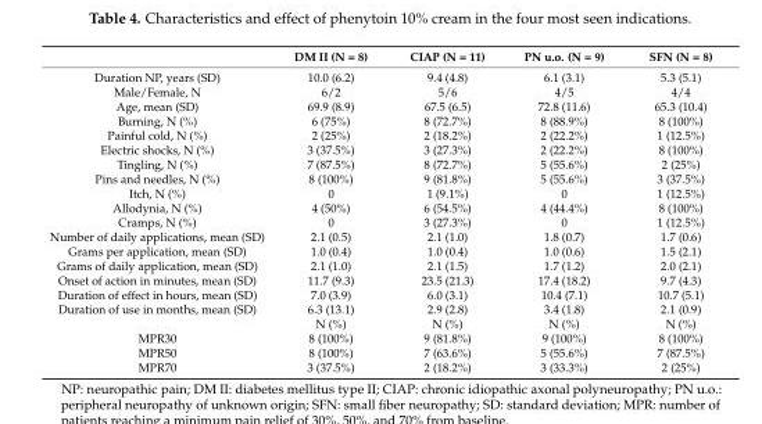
<table><thead><tr><td></td><td>DM II (N = 8)</td><td>CIAP (N = 11)</td><td>PN u.o. (N = 9)</td><td>SFN (N = 8)</td></tr></thead><tbody><tr><td>Duration NP, years (SD)</td><td>10.0 (6.2)</td><td>9.4 (4.8)</td><td>6.1 (3.1)</td><td>5.3 (5.1)</td></tr><tr><td>Male/Female, N</td><td>6/2</td><td>5/6</td><td>4/5</td><td>4/4</td></tr><tr><td>Age, mean (SD)</td><td>69.9 (8.9)</td><td>67.5 (6.5)</td><td>72.8 (11.6)</td><td>65.3 (10.4)</td></tr><tr><td>Burning, N (%)</td><td>6 (75%)</td><td>8 (72.7%)</td><td>8 (88.9%)</td><td>8 (100%)</td></tr><tr><td>Painful cold, N (%)</td><td>2 (25%)</td><td>2 (18.2%)</td><td>2 (22.2%)</td><td>1 (12.5%)</td></tr><tr><td>Electric shocks, N (%)</td><td>3 (37.5%)</td><td>3 (27.3%)</td><td>2 (22.2%)</td><td>8 (100%)</td></tr><tr><td>Tingling, N (%)</td><td>7 (87.5%)</td><td>8 (72.7%)</td><td>5 (55.6%)</td><td>2 (25%)</td></tr><tr><td>Pins and needles, N (%)</td><td>8 (100%)</td><td>9 (81.8%)</td><td>5 (55.6%)</td><td>3 (37.5%)</td></tr><tr><td>Itch, N (%)</td><td>0</td><td>1 (9.1%)</td><td>0</td><td>1 (12.5%)</td></tr><tr><td>Allodynia, N (%)</td><td>4 (50%)</td><td>6 (54.5%)</td><td>4 (44.4%)</td><td>8 (100%)</td></tr><tr><td>Cramps, N (%)</td><td>0</td><td>3 (27.3%)</td><td>0</td><td>1 (12.5%)</td></tr><tr><td>Number of daily applications, mean (SD)</td><td>2.1 (0.5)</td><td>2.1 (1.0)</td><td>1.8 (0.7)</td><td>1.7 (0.6)</td></tr><tr><td>Grams per application, mean (SD)</td><td>1.0 (0.4)</td><td>1.0 (0.4)</td><td>1.0 (0.6)</td><td>1.5 (2.1)</td></tr><tr><td>Grams of daily application, mean (SD)</td><td>2.1 (1.0)</td><td>2.1 (1.5)</td><td>1.7 (1.2)</td><td>2.0 (2.1)</td></tr><tr><td>Onset of action in minutes, mean (SD)</td><td>11.7 (9.3)</td><td>23.5 (21.3)</td><td>17.4 (18.2)</td><td>9.7 (4.3)</td></tr><tr><td>Duration of effect in hours, mean (SD)</td><td>7.0 (3.9)</td><td>6.0 (3.1)</td><td>10.4 (7.1)</td><td>10.7 (5.1)</td></tr><tr><td rowspan="2">Duration of use in months, mean (SD)</td><td>6.3 (13.1)</td><td>2.9 (2.8)</td><td>3.4 (1.8)</td><td>2.1 (0.9)</td></tr><tr><td>N (%)</td><td>N (%)</td><td>N (%)</td><td>N (%)</td></tr><tr><td>MPR30</td><td>8 (100%)</td><td>9 (81.8%)</td><td>9 (100%)</td><td>8 (100%)</td></tr><tr><td>MPR50</td><td>8 (100%)</td><td>7 (63.6%)</td><td>5 (55.6%)</td><td>7 (87.5%)</td></tr><tr><td>MPR70</td><td>3 (37.5%)</td><td>2 (18.2%)</td><td>3 (33.3%)</td><td>2 (25%)</td></tr></tbody></table>